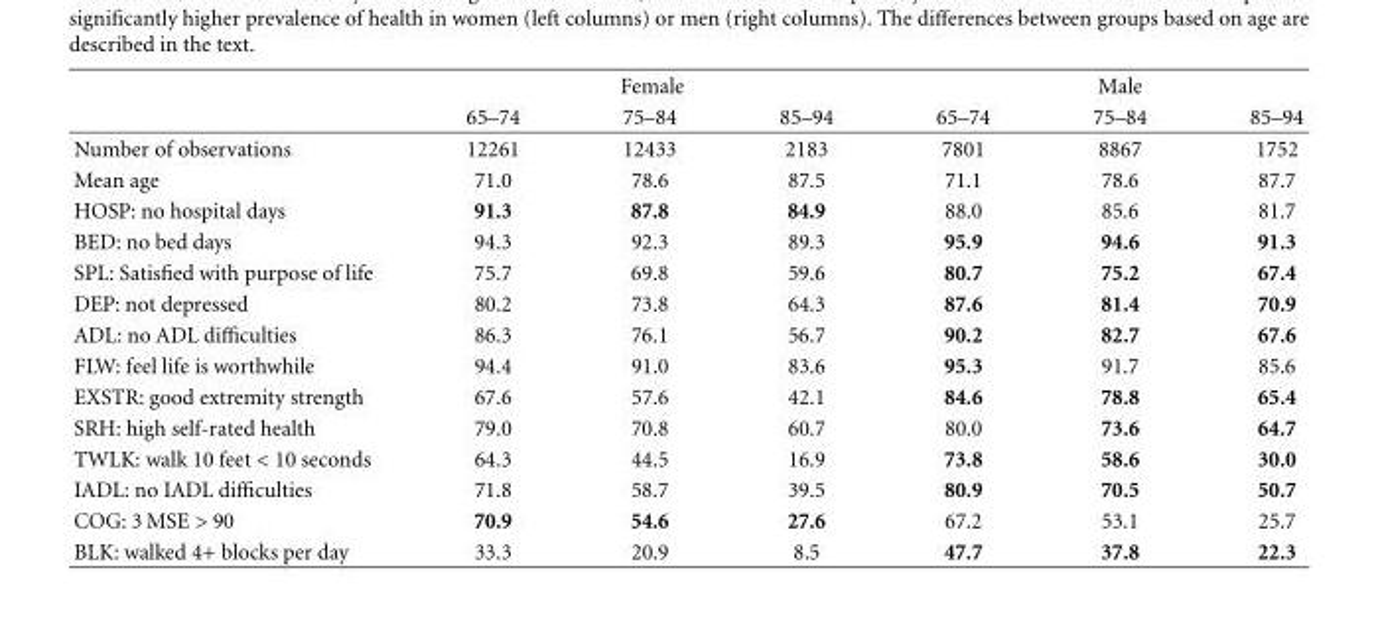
<table><thead><tr><td rowspan="2"></td><td colspan="3">Female</td><td colspan="3">Male</td></tr><tr><td>65–74</td><td>75–84</td><td>85–94</td><td>65–74</td><td>75–84</td><td>85–94</td></tr></thead><tbody><tr><td>Number of observations</td><td>12261</td><td>12433</td><td>2183</td><td>7801</td><td>8867</td><td>1752</td></tr><tr><td>Mean age</td><td>71.0</td><td>78.6</td><td>87.5</td><td>71.1</td><td>78.6</td><td>87.7</td></tr><tr><td>HOSP: no hospital days</td><td>91.3</td><td>87.8</td><td>84.9</td><td>88.0</td><td>85.6</td><td>81.7</td></tr><tr><td>BED: no bed days</td><td>94.3</td><td>92.3</td><td>89.3</td><td>95.9</td><td>94.6</td><td>91.3</td></tr><tr><td>SPL: Satisfied with purpose of life</td><td>75.7</td><td>69.8</td><td>59.6</td><td>80.7</td><td>75.2</td><td>67.4</td></tr><tr><td>DEP: not depressed</td><td>80.2</td><td>73.8</td><td>64.3</td><td>87.6</td><td>81.4</td><td>70.9</td></tr><tr><td>ADL: no ADL difficulties</td><td>86.3</td><td>76.1</td><td>56.7</td><td>90.2</td><td>82.7</td><td>67.6</td></tr><tr><td>FLW: feel life is worthwhile</td><td>94.4</td><td>91.0</td><td>83.6</td><td>95.3</td><td>91.7</td><td>85.6</td></tr><tr><td>EXSTR: good extremity strength</td><td>67.6</td><td>57.6</td><td>42.1</td><td>84.6</td><td>78.8</td><td>65.4</td></tr><tr><td>SRH: high self-rated health</td><td>79.0</td><td>70.8</td><td>60.7</td><td>80.0</td><td>73.6</td><td>64.7</td></tr><tr><td>TWLK: walk 10 feet &lt; 10 seconds</td><td>64.3</td><td>44.5</td><td>16.9</td><td>73.8</td><td>58.6</td><td>30.0</td></tr><tr><td>IADL: no IADL difficulties</td><td>71.8</td><td>58.7</td><td>39.5</td><td>80.9</td><td>70.5</td><td>50.7</td></tr><tr><td>COG: 3 MSE &gt; 90</td><td>70.9</td><td>54.6</td><td>27.6</td><td>67.2</td><td>53.1</td><td>25.7</td></tr><tr><td>BLK: walked 4+ blocks per day</td><td>33.3</td><td>20.9</td><td>8.5</td><td>47.7</td><td>37.8</td><td>22.3</td></tr></tbody></table>